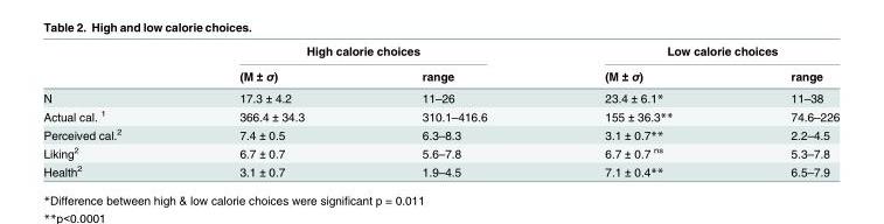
<table><thead><tr><td rowspan="2"></td><td colspan="2">High calorie choices</td><td colspan="2">Low calorie choices</td></tr><tr><td>(M ± σ)</td><td>range</td><td>(M ± σ)</td><td>range</td></tr></thead><tbody><tr><td>N</td><td>17.3 ± 4.2</td><td>11–26</td><td>23.4 ± 6.1*</td><td>11–38</td></tr><tr><td>Actual cal. <sup>1</sup></td><td>366.4 ± 34.3</td><td>310.1–416.6</td><td>155 ± 36.3**</td><td>74.6–226</td></tr><tr><td>Perceived cal.<sup>2</sup></td><td>7.4 ± 0.5</td><td>6.3–8.3</td><td>3.1 ± 0.7**</td><td>2.2–4.5</td></tr><tr><td>Liking<sup>2</sup></td><td>6.7 ± 0.7</td><td>5.6–7.8</td><td>6.7 ± 0.7 <sup>ns</sup></td><td>5.3–7.8</td></tr><tr><td>Health<sup>2</sup></td><td>3.1 ± 0.7</td><td>1.9–4.5</td><td>7.1 ± 0.4**</td><td>6.5–7.9</td></tr></tbody></table>